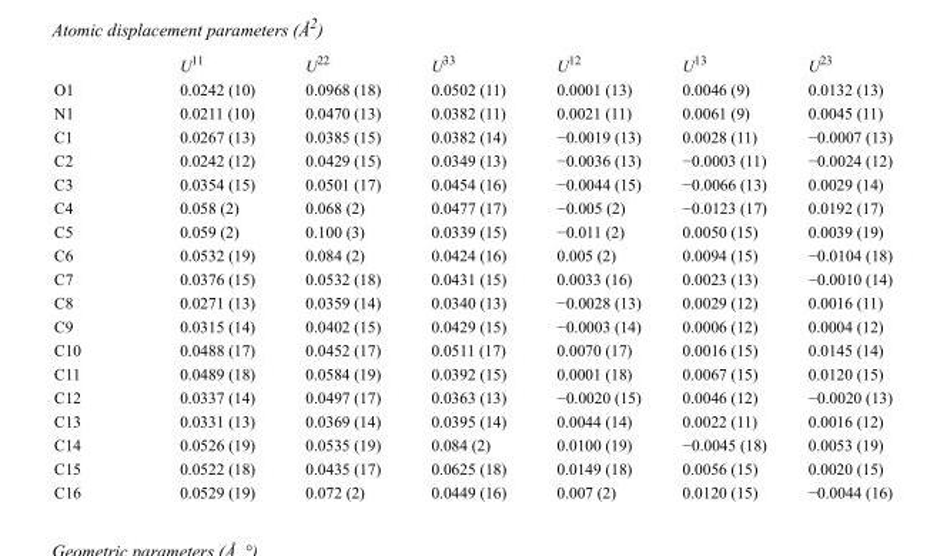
<table><thead><tr><td></td><td>U<sup>11</sup></td><td>U<sup>22</sup></td><td>U<sup>33</sup></td><td>U<sup>12</sup></td><td>U<sup>13</sup></td><td>U<sup>23</sup></td></tr></thead><tbody><tr><td>O1</td><td>0.0242 (10)</td><td>0.0968 (18)</td><td>0.0502 (11)</td><td>0.0001 (13)</td><td>0.0046 (9)</td><td>0.0132 (13)</td></tr><tr><td>N1</td><td>0.0211 (10)</td><td>0.0470 (13)</td><td>0.0382 (11)</td><td>0.0021 (11)</td><td>0.0061 (9)</td><td>0.0045 (11)</td></tr><tr><td>C1</td><td>0.0267 (13)</td><td>0.0385 (15)</td><td>0.0382 (14)</td><td>−0.0019 (13)</td><td>0.0028 (11)</td><td>−0.0007 (13)</td></tr><tr><td>C2</td><td>0.0242 (12)</td><td>0.0429 (15)</td><td>0.0349 (13)</td><td>−0.0036 (13)</td><td>−0.0003 (11)</td><td>−0.0024 (12)</td></tr><tr><td>C3</td><td>0.0354 (15)</td><td>0.0501 (17)</td><td>0.0454 (16)</td><td>−0.0044 (15)</td><td>−0.0066 (13)</td><td>0.0029 (14)</td></tr><tr><td>C4</td><td>0.058 (2)</td><td>0.068 (2)</td><td>0.0477 (17)</td><td>−0.005 (2)</td><td>−0.0123 (17)</td><td>0.0192 (17)</td></tr><tr><td>C5</td><td>0.059 (2)</td><td>0.100 (3)</td><td>0.0339 (15)</td><td>−0.011 (2)</td><td>0.0050 (15)</td><td>0.0039 (19)</td></tr><tr><td>C6</td><td>0.0532 (19)</td><td>0.084 (2)</td><td>0.0424 (16)</td><td>0.005 (2)</td><td>0.0094 (15)</td><td>−0.0104 (18)</td></tr><tr><td>C7</td><td>0.0376 (15)</td><td>0.0532 (18)</td><td>0.0431 (15)</td><td>0.0033 (16)</td><td>0.0023 (13)</td><td>−0.0010 (14)</td></tr><tr><td>C8</td><td>0.0271 (13)</td><td>0.0359 (14)</td><td>0.0340 (13)</td><td>−0.0028 (13)</td><td>0.0029 (12)</td><td>0.0016 (11)</td></tr><tr><td>C9</td><td>0.0315 (14)</td><td>0.0402 (15)</td><td>0.0429 (15)</td><td>−0.0003 (14)</td><td>0.0006 (12)</td><td>0.0004 (12)</td></tr><tr><td>C10</td><td>0.0488 (17)</td><td>0.0452 (17)</td><td>0.0511 (17)</td><td>0.0070 (17)</td><td>0.0016 (15)</td><td>0.0145 (14)</td></tr><tr><td>C11</td><td>0.0489 (18)</td><td>0.0584 (19)</td><td>0.0392 (15)</td><td>0.0001 (18)</td><td>0.0067 (15)</td><td>0.0120 (15)</td></tr><tr><td>C12</td><td>0.0337 (14)</td><td>0.0497 (17)</td><td>0.0363 (13)</td><td>−0.0020 (15)</td><td>0.0046 (12)</td><td>−0.0020 (13)</td></tr><tr><td>C13</td><td>0.0331 (13)</td><td>0.0369 (14)</td><td>0.0395 (14)</td><td>0.0044 (14)</td><td>0.0022 (11)</td><td>0.0016 (12)</td></tr><tr><td>C14</td><td>0.0526 (19)</td><td>0.0535 (19)</td><td>0.084 (2)</td><td>0.0100 (19)</td><td>−0.0045 (18)</td><td>0.0053 (19)</td></tr><tr><td>C15</td><td>0.0522 (18)</td><td>0.0435 (17)</td><td>0.0625 (18)</td><td>0.0149 (18)</td><td>0.0056 (15)</td><td>0.0020 (15)</td></tr><tr><td>C16</td><td>0.0529 (19)</td><td>0.072 (2)</td><td>0.0449 (16)</td><td>0.007 (2)</td><td>0.0120 (15)</td><td>−0.0044 (16)</td></tr></tbody></table>